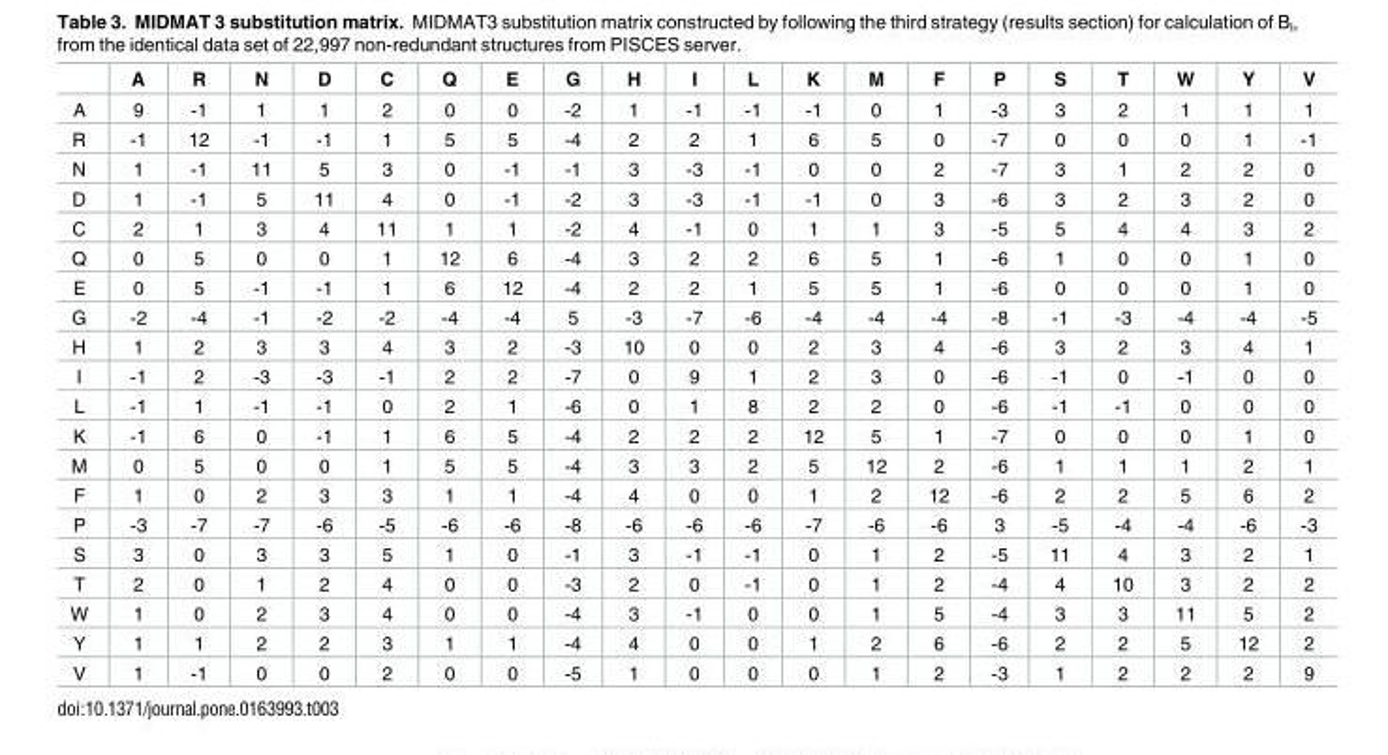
<table><thead><tr><td></td><td>A</td><td>R</td><td>N</td><td>D</td><td>C</td><td>Q</td><td>E</td><td>G</td><td>H</td><td>I</td><td>L</td><td>K</td><td>M</td><td>F</td><td>P</td><td>S</td><td>T</td><td>W</td><td>Y</td><td>V</td></tr></thead><tbody><tr><td>A</td><td>9</td><td>-1</td><td>1</td><td>1</td><td>2</td><td>0</td><td>0</td><td>-2</td><td>1</td><td>-1</td><td>-1</td><td>-1</td><td>0</td><td>1</td><td>-3</td><td>3</td><td>2</td><td>1</td><td>1</td><td>1</td></tr><tr><td>R</td><td>-1</td><td>12</td><td>-1</td><td>-1</td><td>1</td><td>5</td><td>5</td><td>-4</td><td>2</td><td>2</td><td>1</td><td>6</td><td>5</td><td>0</td><td>-7</td><td>0</td><td>0</td><td>0</td><td>1</td><td>-1</td></tr><tr><td>N</td><td>1</td><td>-1</td><td>11</td><td>5</td><td>3</td><td>0</td><td>-1</td><td>-1</td><td>3</td><td>-3</td><td>-1</td><td>0</td><td>0</td><td>2</td><td>-7</td><td>3</td><td>1</td><td>2</td><td>2</td><td>0</td></tr><tr><td>D</td><td>1</td><td>-1</td><td>5</td><td>11</td><td>4</td><td>0</td><td>-1</td><td>-2</td><td>3</td><td>-3</td><td>-1</td><td>-1</td><td>0</td><td>3</td><td>-6</td><td>3</td><td>2</td><td>3</td><td>2</td><td>0</td></tr><tr><td>C</td><td>2</td><td>1</td><td>3</td><td>4</td><td>11</td><td>1</td><td>1</td><td>-2</td><td>4</td><td>-1</td><td>0</td><td>1</td><td>1</td><td>3</td><td>-5</td><td>5</td><td>4</td><td>4</td><td>3</td><td>2</td></tr><tr><td>Q</td><td>0</td><td>5</td><td>0</td><td>0</td><td>1</td><td>12</td><td>6</td><td>-4</td><td>3</td><td>2</td><td>2</td><td>6</td><td>5</td><td>1</td><td>-6</td><td>1</td><td>0</td><td>0</td><td>1</td><td>0</td></tr><tr><td>E</td><td>0</td><td>5</td><td>-1</td><td>-1</td><td>1</td><td>6</td><td>12</td><td>-4</td><td>2</td><td>2</td><td>1</td><td>5</td><td>5</td><td>1</td><td>-6</td><td>0</td><td>0</td><td>0</td><td>1</td><td>0</td></tr><tr><td>G</td><td>-2</td><td>-4</td><td>-1</td><td>-2</td><td>-2</td><td>-4</td><td>-4</td><td>5</td><td>-3</td><td>-7</td><td>-6</td><td>-4</td><td>-4</td><td>-4</td><td>-8</td><td>-1</td><td>-3</td><td>-4</td><td>-4</td><td>-5</td></tr><tr><td>H</td><td>1</td><td>2</td><td>3</td><td>3</td><td>4</td><td>3</td><td>2</td><td>-3</td><td>10</td><td>0</td><td>0</td><td>2</td><td>3</td><td>4</td><td>-6</td><td>3</td><td>2</td><td>3</td><td>4</td><td>1</td></tr><tr><td>I</td><td>-1</td><td>2</td><td>-3</td><td>-3</td><td>-1</td><td>2</td><td>2</td><td>-7</td><td>0</td><td>9</td><td>1</td><td>2</td><td>3</td><td>0</td><td>-6</td><td>-1</td><td>0</td><td>-1</td><td>0</td><td>0</td></tr><tr><td>L</td><td>-1</td><td>1</td><td>-1</td><td>-1</td><td>0</td><td>2</td><td>1</td><td>-6</td><td>0</td><td>1</td><td>8</td><td>2</td><td>2</td><td>0</td><td>-6</td><td>-1</td><td>-1</td><td>0</td><td>0</td><td>0</td></tr><tr><td>K</td><td>-1</td><td>6</td><td>0</td><td>-1</td><td>1</td><td>6</td><td>5</td><td>-4</td><td>2</td><td>2</td><td>2</td><td>12</td><td>5</td><td>1</td><td>-7</td><td>0</td><td>0</td><td>0</td><td>1</td><td>0</td></tr><tr><td>M</td><td>0</td><td>5</td><td>0</td><td>0</td><td>1</td><td>5</td><td>5</td><td>-4</td><td>3</td><td>3</td><td>2</td><td>5</td><td>12</td><td>2</td><td>-6</td><td>1</td><td>1</td><td>1</td><td>2</td><td>1</td></tr><tr><td>F</td><td>1</td><td>0</td><td>2</td><td>3</td><td>3</td><td>1</td><td>1</td><td>-4</td><td>4</td><td>0</td><td>0</td><td>1</td><td>2</td><td>12</td><td>-6</td><td>2</td><td>2</td><td>5</td><td>6</td><td>2</td></tr><tr><td>P</td><td>-3</td><td>-7</td><td>-7</td><td>-6</td><td>-5</td><td>-6</td><td>-6</td><td>-8</td><td>-6</td><td>-6</td><td>-6</td><td>-7</td><td>-6</td><td>-6</td><td>3</td><td>-5</td><td>-4</td><td>-4</td><td>-6</td><td>-3</td></tr><tr><td>S</td><td>3</td><td>0</td><td>3</td><td>3</td><td>5</td><td>1</td><td>0</td><td>-1</td><td>3</td><td>-1</td><td>-1</td><td>0</td><td>1</td><td>2</td><td>-5</td><td>11</td><td>4</td><td>3</td><td>2</td><td>1</td></tr><tr><td>T</td><td>2</td><td>0</td><td>1</td><td>2</td><td>4</td><td>0</td><td>0</td><td>-3</td><td>2</td><td>0</td><td>-1</td><td>0</td><td>1</td><td>2</td><td>-4</td><td>4</td><td>10</td><td>3</td><td>2</td><td>2</td></tr><tr><td>W</td><td>1</td><td>0</td><td>2</td><td>3</td><td>4</td><td>0</td><td>0</td><td>-4</td><td>3</td><td>-1</td><td>0</td><td>0</td><td>1</td><td>5</td><td>-4</td><td>3</td><td>3</td><td>11</td><td>5</td><td>2</td></tr><tr><td>Y</td><td>1</td><td>1</td><td>2</td><td>2</td><td>3</td><td>1</td><td>1</td><td>-4</td><td>4</td><td>0</td><td>0</td><td>1</td><td>2</td><td>6</td><td>-6</td><td>2</td><td>2</td><td>5</td><td>12</td><td>2</td></tr><tr><td>V</td><td>1</td><td>-1</td><td>0</td><td>0</td><td>2</td><td>0</td><td>0</td><td>-5</td><td>1</td><td>0</td><td>0</td><td>0</td><td>1</td><td>2</td><td>-3</td><td>1</td><td>2</td><td>2</td><td>2</td><td>9</td></tr></tbody></table>